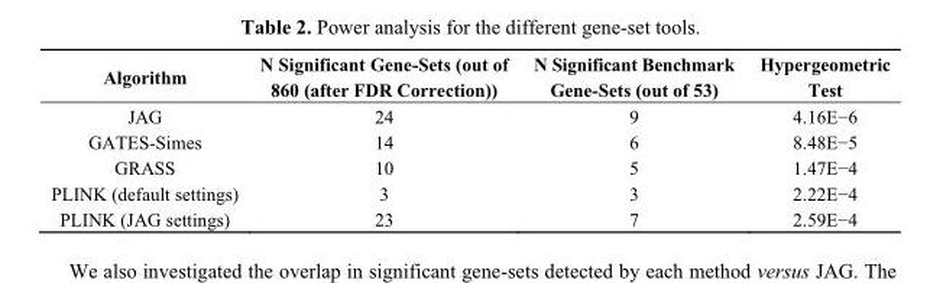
<table><thead><tr><td>Algorithm</td><td>N Significant Gene-Sets (out of 860 (after FDR Correction))</td><td>N Significant Benchmark Gene-Sets (out of 53)</td><td>Hypergeometric Test</td></tr></thead><tbody><tr><td>JAG</td><td>24</td><td>9</td><td>4.16E−6</td></tr><tr><td>GATES-Simes</td><td>14</td><td>6</td><td>8.48E−5</td></tr><tr><td>GRASS</td><td>10</td><td>5</td><td>1.47E−4</td></tr><tr><td>PLINK (default settings)</td><td>3</td><td>3</td><td>2.22E−4</td></tr><tr><td>PLINK (JAG settings)</td><td>23</td><td>7</td><td>2.59E−4</td></tr></tbody></table>